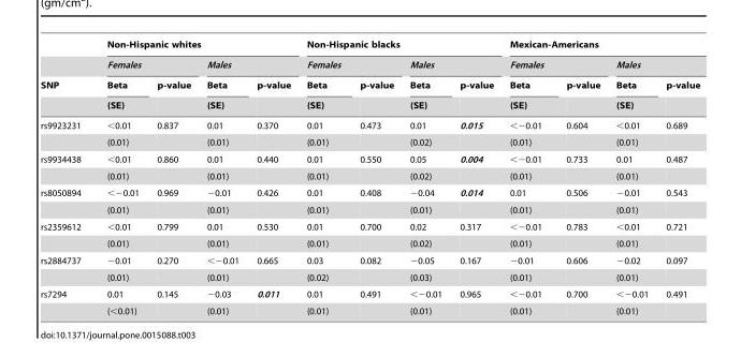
<table><thead><tr><td rowspan="4">SNP</td><td colspan="4">Non-Hispanic whites</td><td colspan="4">Non-Hispanic blacks</td><td colspan="4">Mexican-Americans</td></tr><tr><td colspan="2">Females</td><td colspan="2">Males</td><td colspan="2">Females</td><td colspan="2">Males</td><td colspan="2">Females</td><td colspan="2">Males</td></tr><tr><td rowspan="2">Beta (SE)</td><td rowspan="2">p-value</td><td rowspan="2">Beta (SE)</td><td rowspan="2">p-value</td><td rowspan="2">Beta (SE)</td><td rowspan="2">p-value</td><td rowspan="2">Beta (SE)</td><td rowspan="2">p-value</td><td rowspan="2">Beta (SE)</td><td rowspan="2">p-value</td><td rowspan="2">Beta (SE)</td><td rowspan="2">p-value</td></tr><tr></tr></thead><tbody><tr><td rowspan="2">rs9923231</td><td>&lt;0.01</td><td>0.837</td><td>0.01</td><td>0.370</td><td>0.01</td><td>0.473</td><td>0.01</td><td>0.015</td><td>&lt;−0.01</td><td>0.604</td><td>&lt;0.01</td><td>0.689</td></tr><tr><td>(0.01)</td><td></td><td>(0.01)</td><td></td><td>(0.01)</td><td></td><td>(0.02)</td><td></td><td>(0.01)</td><td></td><td>(0.01)</td><td></td></tr><tr><td rowspan="2">rs9934438</td><td>&lt;0.01</td><td>0.860</td><td>0.01</td><td>0.440</td><td>0.01</td><td>0.550</td><td>0.05</td><td>0.004</td><td>&lt;−0.01</td><td>0.733</td><td>0.01</td><td>0.487</td></tr><tr><td>(0.01)</td><td></td><td>(0.01)</td><td></td><td>(0.01)</td><td></td><td>(0.02)</td><td></td><td>(0.01)</td><td></td><td>(0.01)</td><td></td></tr><tr><td rowspan="2">rs8050894</td><td>&lt;−0.01</td><td>0.969</td><td>−0.01</td><td>0.426</td><td>0.01</td><td>0.408</td><td>−0.04</td><td>0.014</td><td>0.01</td><td>0.506</td><td>−0.01</td><td>0.543</td></tr><tr><td>(0.01)</td><td></td><td>(0.01)</td><td></td><td>(0.01)</td><td></td><td>(0.01)</td><td></td><td>(0.01)</td><td></td><td>(0.01)</td><td></td></tr><tr><td rowspan="2">rs2359612</td><td>&lt;0.01</td><td>0.799</td><td>0.01</td><td>0.530</td><td>0.01</td><td>0.700</td><td>0.02</td><td>0.317</td><td>&lt;−0.01</td><td>0.783</td><td>&lt;0.01</td><td>0.721</td></tr><tr><td>(0.01)</td><td></td><td>(0.01)</td><td></td><td>(0.01)</td><td></td><td>(0.02)</td><td></td><td>(0.01)</td><td></td><td>(0.01)</td><td></td></tr><tr><td rowspan="2">rs2884737</td><td>−0.01</td><td>0.270</td><td>&lt;−0.01</td><td>0.665</td><td>0.03</td><td>0.082</td><td>−0.05</td><td>0.167</td><td>−0.01</td><td>0.606</td><td>−0.02</td><td>0.097</td></tr><tr><td>(0.01)</td><td></td><td>(0.01)</td><td></td><td>(0.02)</td><td></td><td>(0.03)</td><td></td><td>(0.01)</td><td></td><td>(0.01)</td><td></td></tr><tr><td rowspan="2">rs7294</td><td>0.01</td><td>0.145</td><td>−0.03</td><td>0.011</td><td>0.01</td><td>0.491</td><td>&lt;−0.01</td><td>0.965</td><td>&lt;−0.01</td><td>0.700</td><td>&lt;−0.01</td><td>0.491</td></tr><tr><td>(&lt;0.01)</td><td></td><td>(0.01)</td><td></td><td>(0.01)</td><td></td><td>(0.01)</td><td></td><td>(0.01)</td><td></td><td>(0.01)</td><td></td></tr></tbody></table>